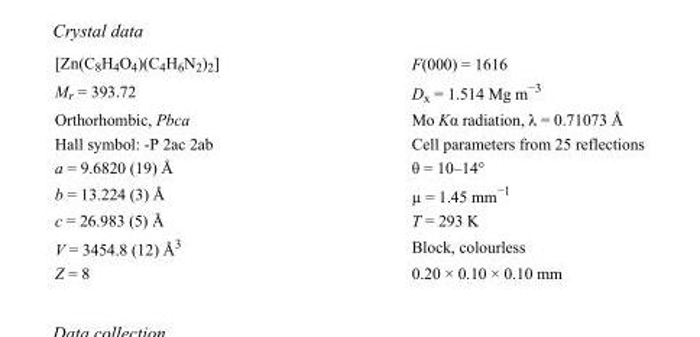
<table><tbody><tr><td>[Zn(C<sub>8</sub>H<sub>4</sub>O<sub>4</sub>)(C<sub>4</sub>H<sub>6</sub>N<sub>2</sub>)<sub>2</sub>]</td><td>F(000) = 1616</td></tr><tr><td>M<sub>r</sub> = 393.72</td><td>D<sub>x</sub> = 1.514 Mg m<sup>−3</sup></td></tr><tr><td>Orthorhombic, Pbca</td><td>Mo Kα radiation, λ = 0.71073 Å</td></tr><tr><td>Hall symbol: -P 2ac 2ab</td><td>Cell parameters from 25 reflections</td></tr><tr><td>a = 9.6820 (19) Å</td><td>θ = 10–14°</td></tr><tr><td>b = 13.224 (3) Å</td><td>µ = 1.45 mm<sup>−1</sup></td></tr><tr><td>c = 26.983 (5) Å</td><td>T = 293 K</td></tr><tr><td>V = 3454.8 (12) Å<sup>3</sup></td><td>Block, colourless</td></tr><tr><td>Z = 8</td><td>0.20 × 0.10 × 0.10 mm</td></tr></tbody></table>